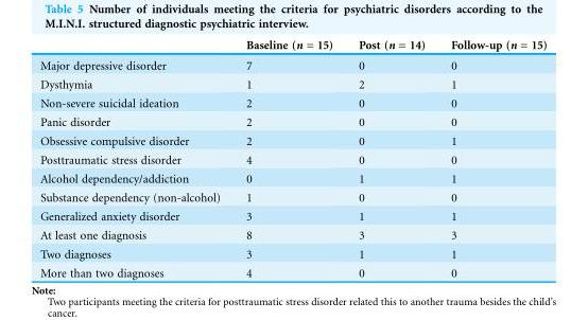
<table><thead><tr><td></td><td>Baseline (n = 15)</td><td>Post (n = 14)</td><td>Follow-up (n = 15)</td></tr></thead><tbody><tr><td>Major depressive disorder</td><td>7</td><td>0</td><td>0</td></tr><tr><td>Dysthymia</td><td>1</td><td>2</td><td>1</td></tr><tr><td>Non-severe suicidal ideation</td><td>2</td><td>0</td><td>0</td></tr><tr><td>Panic disorder</td><td>2</td><td>0</td><td>0</td></tr><tr><td>Obsessive compulsive disorder</td><td>2</td><td>0</td><td>1</td></tr><tr><td>Posttraumatic stress disorder</td><td>4</td><td>0</td><td>0</td></tr><tr><td>Alcohol dependency/addiction</td><td>0</td><td>1</td><td>1</td></tr><tr><td>Substance dependency (non-alcohol)</td><td>1</td><td>0</td><td>0</td></tr><tr><td>Generalized anxiety disorder</td><td>3</td><td>1</td><td>1</td></tr><tr><td>At least one diagnosis</td><td>8</td><td>3</td><td>3</td></tr><tr><td>Two diagnoses</td><td>3</td><td>1</td><td>1</td></tr><tr><td>More than two diagnoses</td><td>4</td><td>0</td><td>0</td></tr></tbody></table>